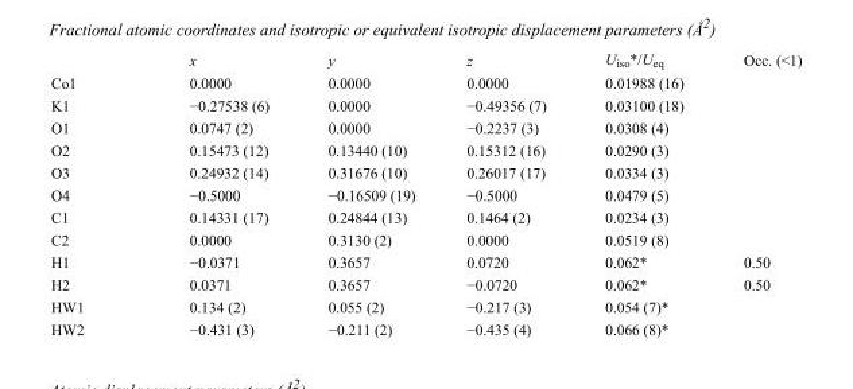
<table><thead><tr><td></td><td>x</td><td>y</td><td>z</td><td>U<sub>iso</sub>*/U<sub>eq</sub></td><td>Occ. (&lt;1)</td></tr></thead><tbody><tr><td>Co1</td><td>0.0000</td><td>0.0000</td><td>0.0000</td><td>0.01988 (16)</td><td></td></tr><tr><td>K1</td><td>−0.27538 (6)</td><td>0.0000</td><td>−0.49356 (7)</td><td>0.03100 (18)</td><td></td></tr><tr><td>O1</td><td>0.0747 (2)</td><td>0.0000</td><td>−0.2237 (3)</td><td>0.0308 (4)</td><td></td></tr><tr><td>O2</td><td>0.15473 (12)</td><td>0.13440 (10)</td><td>0.15312 (16)</td><td>0.0290 (3)</td><td></td></tr><tr><td>O3</td><td>0.24932 (14)</td><td>0.31676 (10)</td><td>0.26017 (17)</td><td>0.0334 (3)</td><td></td></tr><tr><td>O4</td><td>−0.5000</td><td>−0.16509 (19)</td><td>−0.5000</td><td>0.0479 (5)</td><td></td></tr><tr><td>C1</td><td>0.14331 (17)</td><td>0.24844 (13)</td><td>0.1464 (2)</td><td>0.0234 (3)</td><td></td></tr><tr><td>C2</td><td>0.0000</td><td>0.3130 (2)</td><td>0.0000</td><td>0.0519 (8)</td><td></td></tr><tr><td>H1</td><td>−0.0371</td><td>0.3657</td><td>0.0720</td><td>0.062*</td><td>0.50</td></tr><tr><td>H2</td><td>0.0371</td><td>0.3657</td><td>−0.0720</td><td>0.062*</td><td>0.50</td></tr><tr><td>HW1</td><td>0.134 (2)</td><td>0.055 (2)</td><td>−0.217 (3)</td><td>0.054 (7)*</td><td></td></tr><tr><td>HW2</td><td>−0.431 (3)</td><td>−0.211 (2)</td><td>−0.435 (4)</td><td>0.066 (8)*</td><td></td></tr></tbody></table>